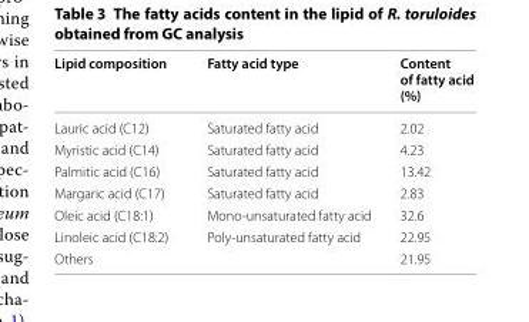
<table><thead><tr><td>Lipid composition</td><td>Fatty acid type</td><td>Content of fatty acid (%)</td></tr></thead><tbody><tr><td>Lauric acid (C12)</td><td>Saturated fatty acid</td><td>2.02</td></tr><tr><td>Myristic acid (C14)</td><td>Saturated fatty acid</td><td>4.23</td></tr><tr><td>Palmitic acid (C16)</td><td>Saturated fatty acid</td><td>13.42</td></tr><tr><td>Margaric acid (C17)</td><td>Saturated fatty acid</td><td>2.83</td></tr><tr><td>Oleic acid (C18:1)</td><td>Mono-unsaturated fatty acid</td><td>32.6</td></tr><tr><td>Linoleic acid (C18:2)</td><td>Poly-unsaturated fatty acid</td><td>22.95</td></tr><tr><td>Others</td><td></td><td>21.95</td></tr></tbody></table>